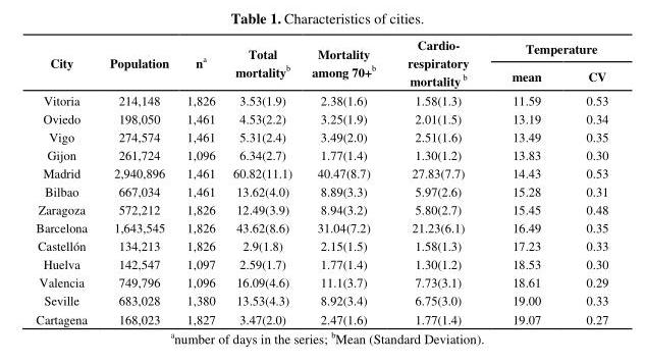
<table><thead><tr><td rowspan="2">City</td><td rowspan="2">Population</td><td rowspan="2">n<sup>a</sup></td><td rowspan="2">Total mortality<sup>b</sup></td><td rowspan="2">Mortality among 70+<sup>b</sup></td><td rowspan="2">Cardio- respiratory mortality <sup>b</sup></td><td colspan="2">Temperature</td></tr><tr><td>mean</td><td>CV</td></tr></thead><tbody><tr><td>Vitoria</td><td>214,148</td><td>1,826</td><td>3.53(1.9)</td><td>2.38(1.6)</td><td>1.58(1.3)</td><td>11.59</td><td>0.53</td></tr><tr><td>Oviedo</td><td>198,050</td><td>1,461</td><td>4.53(2.2)</td><td>3.25(1.9)</td><td>2.01(1.5)</td><td>13.19</td><td>0.34</td></tr><tr><td>Vigo</td><td>274,574</td><td>1,461</td><td>5.31(2.4)</td><td>3.49(2.0)</td><td>2.51(1.6)</td><td>13.49</td><td>0.35</td></tr><tr><td>Gijon</td><td>261,724</td><td>1,096</td><td>6.34(2.7)</td><td>1.77(1.4)</td><td>1.30(1.2)</td><td>13.83</td><td>0.30</td></tr><tr><td>Madrid</td><td>2,940,896</td><td>1,461</td><td>60.82(11.1)</td><td>40.47(8.7)</td><td>27.83(7.7)</td><td>14.43</td><td>0.53</td></tr><tr><td>Bilbao</td><td>667,034</td><td>1,461</td><td>13.62(4.0)</td><td>8.89(3.3)</td><td>5.97(2.6)</td><td>15.28</td><td>0.31</td></tr><tr><td>Zaragoza</td><td>572,212</td><td>1,826</td><td>12.49(3.9)</td><td>8.94(3.2)</td><td>5.80(2.7)</td><td>15.45</td><td>0.48</td></tr><tr><td>Barcelona</td><td>1,643,545</td><td>1,826</td><td>43.62(8.6)</td><td>31.04(7.2)</td><td>21.23(6.1)</td><td>16.49</td><td>0.35</td></tr><tr><td>Castellón</td><td>134,213</td><td>1,826</td><td>2.9(1.8)</td><td>2.15(1.5)</td><td>1.58(1.3)</td><td>17.23</td><td>0.33</td></tr><tr><td>Huelva</td><td>142,547</td><td>1,097</td><td>2.59(1.7)</td><td>1.77(1.4)</td><td>1.30(1.2)</td><td>18.53</td><td>0.30</td></tr><tr><td>Valencia</td><td>749,796</td><td>1,096</td><td>16.09(4.6)</td><td>11.1(3.7)</td><td>7.73(3.1)</td><td>18.61</td><td>0.29</td></tr><tr><td>Seville</td><td>683,028</td><td>1,380</td><td>13.53(4.3)</td><td>8.92(3.4)</td><td>6.75(3.0)</td><td>19.00</td><td>0.33</td></tr><tr><td>Cartagena</td><td>168,023</td><td>1,827</td><td>3.47(2.0)</td><td>2.47(1.6)</td><td>1.77(1.4)</td><td>19.07</td><td>0.27</td></tr></tbody></table>